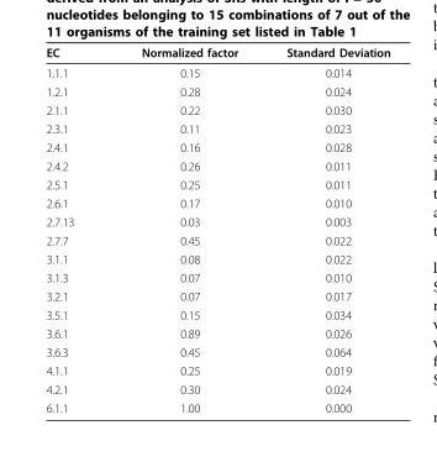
<table><thead><tr><td>EC</td><td>Normalized factor</td><td>Standard Deviation</td></tr></thead><tbody><tr><td>1.1.1</td><td>0.15</td><td>0.014</td></tr><tr><td>1.2.1</td><td>0.28</td><td>0.024</td></tr><tr><td>2.1.1</td><td>0.22</td><td>0.030</td></tr><tr><td>2.3.1</td><td>0.11</td><td>0.023</td></tr><tr><td>2.4.1</td><td>0.16</td><td>0.028</td></tr><tr><td>2.4.2</td><td>0.26</td><td>0.011</td></tr><tr><td>2.5.1</td><td>0.25</td><td>0.011</td></tr><tr><td>2.6.1</td><td>0.17</td><td>0.010</td></tr><tr><td>2.7.13</td><td>0.03</td><td>0.003</td></tr><tr><td>2.7.7</td><td>0.45</td><td>0.022</td></tr><tr><td>3.1.1</td><td>0.08</td><td>0.022</td></tr><tr><td>3.1.3</td><td>0.07</td><td>0.010</td></tr><tr><td>3.2.1</td><td>0.07</td><td>0.017</td></tr><tr><td>3.5.1</td><td>0.15</td><td>0.034</td></tr><tr><td>3.6.1</td><td>0.89</td><td>0.026</td></tr><tr><td>3.6.3</td><td>0.45</td><td>0.064</td></tr><tr><td>4.1.1</td><td>0.25</td><td>0.019</td></tr><tr><td>4.2.1</td><td>0.30</td><td>0.024</td></tr><tr><td>6.1.1</td><td>1.00</td><td>0.000</td></tr></tbody></table>